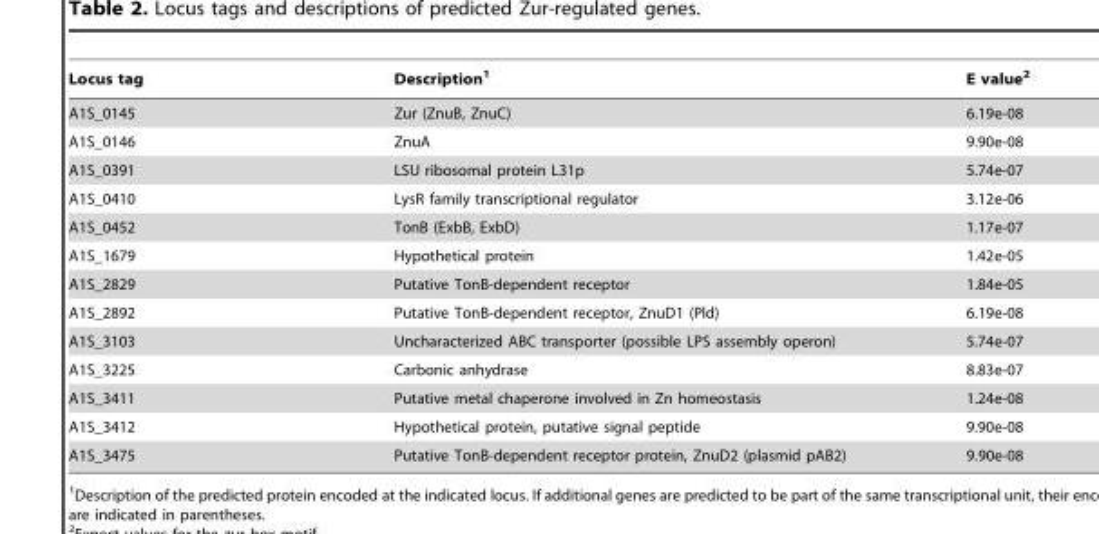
<table><thead><tr><td>Locus tag</td><td>Description<sup>1</sup></td><td>E value<sup>2</sup></td></tr></thead><tbody><tr><td>A1S_0145</td><td>Zur (ZnuB, ZnuC)</td><td>6.19e-08</td></tr><tr><td>A1S_0146</td><td>ZnuA</td><td>9.90e-08</td></tr><tr><td>A1S_0391</td><td>LSU ribosomal protein L31p</td><td>5.74e-07</td></tr><tr><td>A1S_0410</td><td>LysR family transcriptional regulator</td><td>3.12e-06</td></tr><tr><td>A1S_0452</td><td>TonB (ExbB, ExbD)</td><td>1.17e-07</td></tr><tr><td>A1S_1679</td><td>Hypothetical protein</td><td>1.42e-05</td></tr><tr><td>A1S_2829</td><td>Putative TonB-dependent receptor</td><td>1.84e-05</td></tr><tr><td>A1S_2892</td><td>Putative TonB-dependent receptor, ZnuD1 (Pld)</td><td>6.19e-08</td></tr><tr><td>A1S_3103</td><td>Uncharacterized ABC transporter (possible LPS assembly operon)</td><td>5.74e-07</td></tr><tr><td>A1S_3225</td><td>Carbonic anhydrase</td><td>8.83e-07</td></tr><tr><td>A1S_3411</td><td>Putative metal chaperone involved in Zn homeostasis</td><td>1.24e-08</td></tr><tr><td>A1S_3412</td><td>Hypothetical protein, putative signal peptide</td><td>9.90e-08</td></tr><tr><td>A1S_3475</td><td>Putative TonB-dependent receptor protein, ZnuD2 (plasmid pAB2)</td><td>9.90e-08</td></tr></tbody></table>